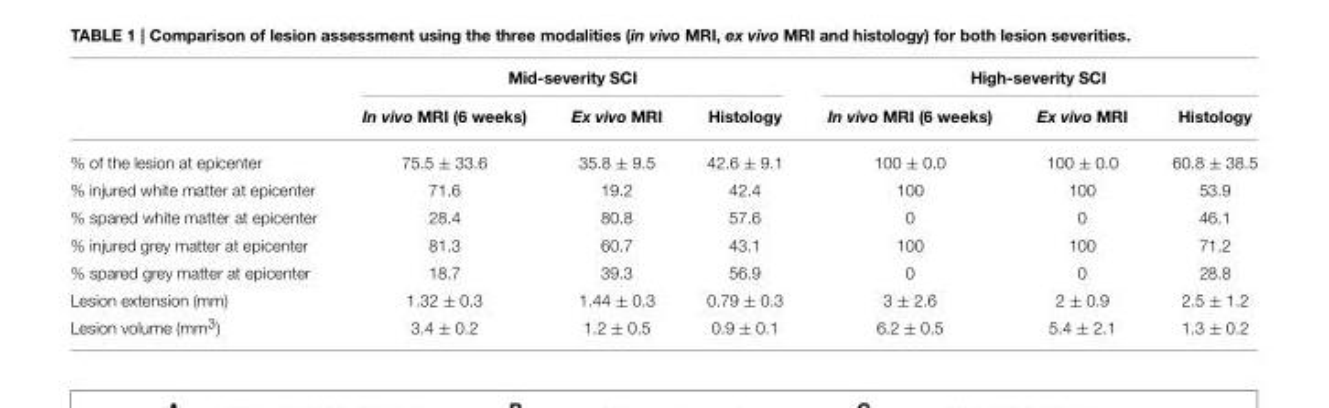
<table><thead><tr><td rowspan="2"></td><td colspan="3">Mid-severity SCI</td><td colspan="3">High-severity SCI</td></tr><tr><td>In vivo MRI (6 weeks)</td><td>Ex vivo MRI</td><td>Histology</td><td>In vivo MRI (6 weeks)</td><td>Ex vivo MRI</td><td>Histology</td></tr></thead><tbody><tr><td>% of the lesion at epicenter</td><td>75.5 ± 33.6</td><td>35.8 ± 9.5</td><td>42.6 ± 9.1</td><td>100 ± 0.0</td><td>100 ± 0.0</td><td>60.8 ± 38.5</td></tr><tr><td>% injured white matter at epicenter</td><td>71.6</td><td>19.2</td><td>42.4</td><td>100</td><td>100</td><td>53.9</td></tr><tr><td>% spared white matter at epicenter</td><td>28.4</td><td>80.8</td><td>57.6</td><td>0</td><td>0</td><td>46.1</td></tr><tr><td>% injured grey matter at epicenter</td><td>81.3</td><td>60.7</td><td>43.1</td><td>100</td><td>100</td><td>71.2</td></tr><tr><td>% spared grey matter at epicenter</td><td>18.7</td><td>39.3</td><td>56.9</td><td>0</td><td>0</td><td>28.8</td></tr><tr><td>Lesion extension (mm)</td><td>1.32 ± 0.3</td><td>1.44 ± 0.3</td><td>0.79 ± 0.3</td><td>3 ± 2.6</td><td>2 ± 0.9</td><td>2.5 ± 1.2</td></tr><tr><td>Lesion volume (mm<sup>3</sup>)</td><td>3.4 ± 0.2</td><td>1.2 ± 0.5</td><td>0.9 ± 0.1</td><td>6.2 ± 0.5</td><td>5.4 ± 2.1</td><td>1.3 ± 0.2</td></tr></tbody></table>